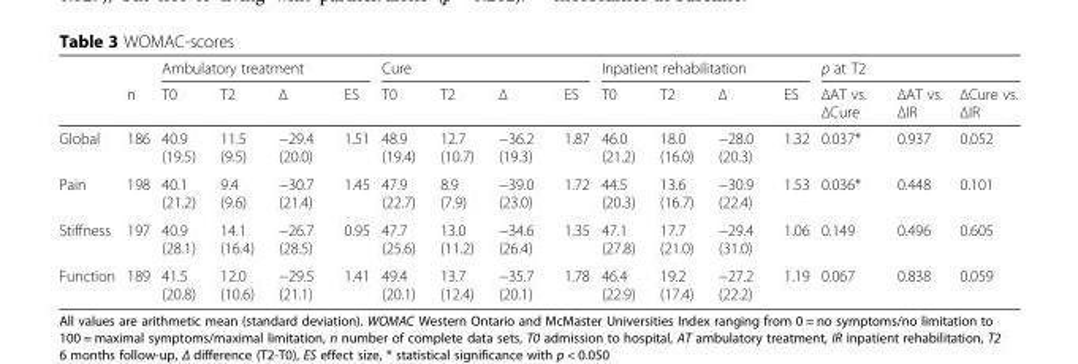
<table><thead><tr><td rowspan="2"></td><td rowspan="2">n</td><td colspan="4">Ambulatory treatment</td><td colspan="4">Cure</td><td colspan="4">Inpatient rehabilitation</td><td colspan="3">p at T2</td></tr><tr><td>T0</td><td>T2</td><td>Δ</td><td>ES</td><td>T0</td><td>T2</td><td>Δ</td><td>ES</td><td>T0</td><td>T2</td><td>Δ</td><td>ES</td><td>ΔAT vs. ΔCure</td><td>ΔAT vs. ΔIR</td><td>ΔCure vs. ΔIR</td></tr></thead><tbody><tr><td>Global</td><td>186</td><td>40.9 (19.5)</td><td>11.5 (9.5)</td><td>−29.4 (20.0)</td><td>1.51</td><td>48.9 (19.4)</td><td>12.7 (10.7)</td><td>−36.2 (19.3)</td><td>1.87</td><td>46.0 (21.2)</td><td>18.0 (16.0)</td><td>−28.0 (20.3)</td><td>1.32</td><td>0.037*</td><td>0.937</td><td>0.052</td></tr><tr><td>Pain</td><td>198</td><td>40.1 (21.2)</td><td>9.4 (9.6)</td><td>−30.7 (21.4)</td><td>1.45</td><td>47.9 (22.7)</td><td>8.9 (7.9)</td><td>−39.0 (23.0)</td><td>1.72</td><td>44.5 (20.3)</td><td>13.6 (16.7)</td><td>−30.9 (22.4)</td><td>1.53</td><td>0.036*</td><td>0.448</td><td>0.101</td></tr><tr><td>Stiffness</td><td>197</td><td>40.9 (28.1)</td><td>14.1 (16.4)</td><td>−26.7 (28.5)</td><td>0.95</td><td>47.7 (25.6)</td><td>13.0 (11.2)</td><td>−34.6 (26.4)</td><td>1.35</td><td>47.1 (27.8)</td><td>17.7 (21.0)</td><td>−29.4 (31.0)</td><td>1.06</td><td>0.149</td><td>0.496</td><td>0.605</td></tr><tr><td>Function</td><td>189</td><td>41.5 (20.8)</td><td>12.0 (10.6)</td><td>−29.5 (21.1)</td><td>1.41</td><td>49.4 (20.1)</td><td>13.7 (12.4)</td><td>−35.7 (20.1)</td><td>1.78</td><td>46.4 (22.9)</td><td>19.2 (17.4)</td><td>−27.2 (22.2)</td><td>1.19</td><td>0.067</td><td>0.838</td><td>0.059</td></tr></tbody></table>